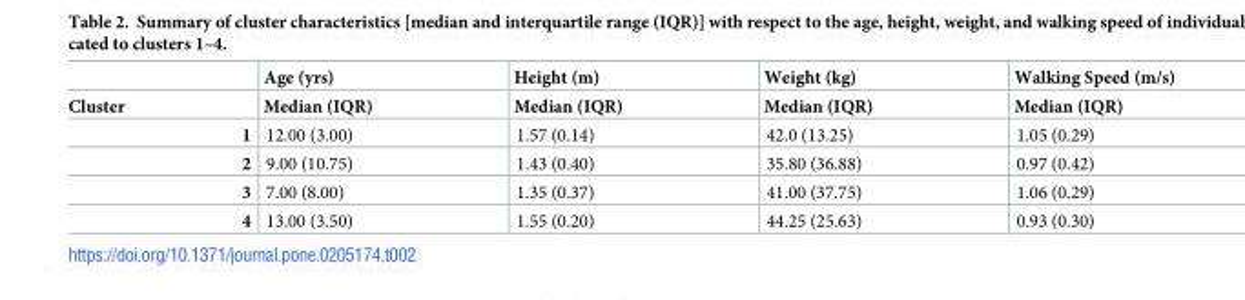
<table><thead><tr><td rowspan="2">Cluster</td><td rowspan="2">Age (yrs) Median (IQR)</td><td rowspan="2">Height (m) Median (IQR)</td><td rowspan="2">Weight (kg) Median (IQR)</td><td rowspan="2">Walking Speed (m/s) Median (IQR)</td></tr><tr></tr></thead><tbody><tr><td>1</td><td>12.00 (3.00)</td><td>1.57 (0.14)</td><td>42.0 (13.25)</td><td>1.05 (0.29)</td></tr><tr><td>2</td><td>9.00 (10.75)</td><td>1.43 (0.40)</td><td>35.80 (36.88)</td><td>0.97 (0.42)</td></tr><tr><td>3</td><td>7.00 (8.00)</td><td>1.35 (0.37)</td><td>41.00 (37.75)</td><td>1.06 (0.29)</td></tr><tr><td>4</td><td>13.00 (3.50)</td><td>1.55 (0.20)</td><td>44.25 (25.63)</td><td>0.93 (0.30)</td></tr></tbody></table>